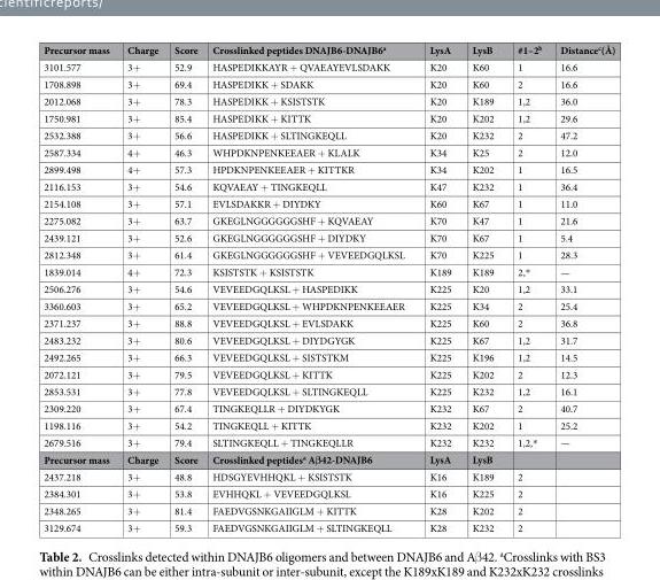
<table><thead><tr><td>Precursor mass</td><td>Charge</td><td>Score</td><td>Crosslinked peptides DNAJB6-DNAJB6<sup>a</sup></td><td>LysA</td><td>LysB</td><td>#1–2<sup>b</sup></td><td>Distance<sup>c</sup>(Å)</td></tr></thead><tbody><tr><td>3101.577</td><td>3+</td><td>52.9</td><td>HASPEDIKKAYR + QVAEAYEVLSDAKK</td><td>K20</td><td>K60</td><td>1</td><td>16.6</td></tr><tr><td>1708.898</td><td>3+</td><td>69.4</td><td>HASPEDIKK + SDAKK</td><td>K20</td><td>K60</td><td>2</td><td>16.6</td></tr><tr><td>2012.068</td><td>3+</td><td>78.3</td><td>HASPEDIKK + KSISTSTK</td><td>K20</td><td>K189</td><td>1,2</td><td>36.0</td></tr><tr><td>1750.981</td><td>3+</td><td>85.4</td><td>HASPEDIKK + KITTK</td><td>K20</td><td>K202</td><td>1,2</td><td>29.6</td></tr><tr><td>2532.388</td><td>3+</td><td>56.6</td><td>HASPEDIKK + SLTINGKEQLL</td><td>K20</td><td>K232</td><td>2</td><td>47.2</td></tr><tr><td>2587.334</td><td>4+</td><td>46.3</td><td>WHPDKNPENKEEAER + KLALK</td><td>K34</td><td>K25</td><td>2</td><td>12.0</td></tr><tr><td>2899.498</td><td>4+</td><td>57.3</td><td>HPDKNPENKEEAER + KITTKR</td><td>K34</td><td>K202</td><td>1</td><td>16.5</td></tr><tr><td>2116.153</td><td>3+</td><td>54.6</td><td>KQVAEAY + TINGKEQLL</td><td>K47</td><td>K232</td><td>1</td><td>36.4</td></tr><tr><td>2154.108</td><td>3+</td><td>57.1</td><td>EVLSDAKKR + DIYDKY</td><td>K60</td><td>K67</td><td>1</td><td>11.0</td></tr><tr><td>2275.082</td><td>3+</td><td>63.7</td><td>GKEGLNGGGGGGSHF + KQVAEAY</td><td>K70</td><td>K47</td><td>1</td><td>21.6</td></tr><tr><td>2439.121</td><td>3+</td><td>52.6</td><td>GKEGLNGGGGGGSHF + DIYDKY</td><td>K70</td><td>K67</td><td>1</td><td>5.4</td></tr><tr><td>2812.348</td><td>3+</td><td>61.4</td><td>GKEGLNGGGGGGSHF + VEVEEDGQLKSL</td><td>K70</td><td>K225</td><td>1</td><td>28.3</td></tr><tr><td>1839.014</td><td>4+</td><td>72.3</td><td>KSISTSTK + KSISTSTK</td><td>K189</td><td>K189</td><td>2,*</td><td>—</td></tr><tr><td>2506.276</td><td>3+</td><td>54.6</td><td>VEVEEDGQLKSL + HASPEDIKK</td><td>K225</td><td>K20</td><td>1,2</td><td>33.1</td></tr><tr><td>3360.603</td><td>3+</td><td>65.2</td><td>VEVEEDGQLKSL + WHPDKNPENKEEAER</td><td>K225</td><td>K34</td><td>2</td><td>25.4</td></tr><tr><td>2371.237</td><td>3+</td><td>88.8</td><td>VEVEEDGQLKSL + EVLSDAKK</td><td>K225</td><td>K60</td><td>2</td><td>36.8</td></tr><tr><td>2483.232</td><td>3+</td><td>80.6</td><td>VEVEEDGQLKSL + DIYDGYGK</td><td>K225</td><td>K67</td><td>1,2</td><td>31.7</td></tr><tr><td>2492.265</td><td>3+</td><td>66.3</td><td>VEVEEDGQLKSL + SISTSTKM</td><td>K225</td><td>K196</td><td>1,2</td><td>14.5</td></tr><tr><td>2072.121</td><td>3+</td><td>79.5</td><td>VEVEEDGQLKSL + KITTK</td><td>K225</td><td>K202</td><td>2</td><td>12.3</td></tr><tr><td>2853.531</td><td>3+</td><td>77.8</td><td>VEVEEDGQLKSL + SLTINGKEQLL</td><td>K225</td><td>K232</td><td>1,2</td><td>16.1</td></tr><tr><td>2309.220</td><td>3+</td><td>67.4</td><td>TINGKEQLLR + DIYDKYGK</td><td>K232</td><td>K67</td><td>2</td><td>40.7</td></tr><tr><td>1198.116</td><td>3+</td><td>54.2</td><td>TINGKEQLL + KITTK</td><td>K232</td><td>K202</td><td>1</td><td>25.2</td></tr><tr><td>2679.516</td><td>3+</td><td>79.4</td><td>SLTINGKEQLL + TINGKEQLLR</td><td>K232</td><td>K232</td><td>1,2,*</td><td>—</td></tr><tr><td>Precursor mass</td><td>Charge</td><td>Score</td><td>Crosslinked peptides<sup>a</sup> Aβ42-DNAJB6</td><td>LysA</td><td>LysB</td><td></td><td></td></tr><tr><td>2437.218</td><td>3+</td><td>48.8</td><td>HDSGYEVHHQKL + KSISTSTK</td><td>K16</td><td>K189</td><td>2</td><td></td></tr><tr><td>2384.301</td><td>3+</td><td>53.8</td><td>EVHHQKL + VEVEEDGQLKSL</td><td>K16</td><td>K225</td><td>2</td><td></td></tr><tr><td>2348.265</td><td>3+</td><td>81.4</td><td>FAEDVGSNKGAIIGLM + KITTK</td><td>K28</td><td>K202</td><td>2</td><td></td></tr><tr><td>3129.674</td><td>3+</td><td>59.3</td><td>FAEDVGSNKGAIIGLM + SLTINGKEQLL</td><td>K28</td><td>K232</td><td>2</td><td></td></tr></tbody></table>